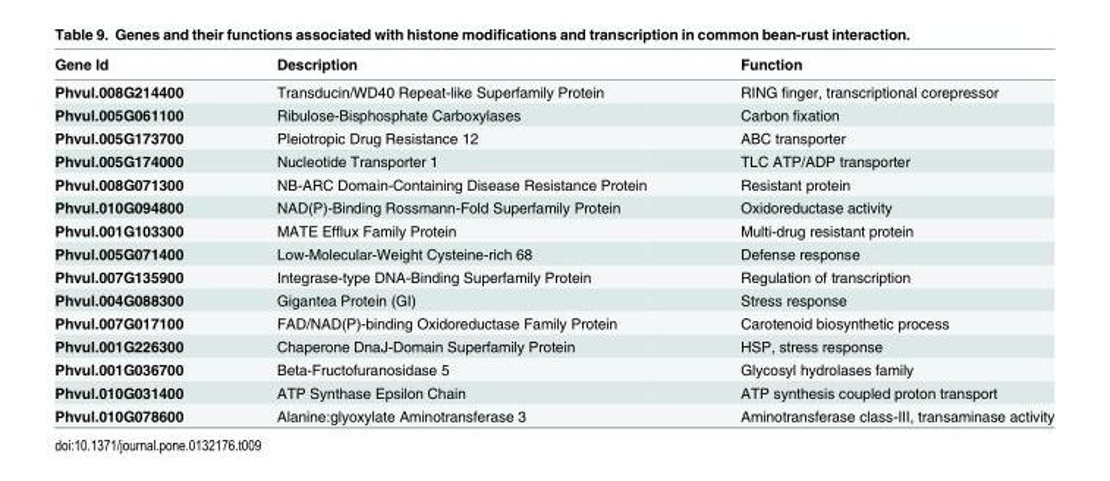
<table><thead><tr><td>Gene Id</td><td>Description</td><td>Function</td></tr></thead><tbody><tr><td>Phvul.008G214400</td><td>Transducin/WD40 Repeat-like Superfamily Protein</td><td>RING finger, transcriptional corepressor</td></tr><tr><td>Phvul.005G061100</td><td>Ribulose-Bisphosphate Carboxylases</td><td>Carbon fixation</td></tr><tr><td>Phvul.005G173700</td><td>Pleiotropic Drug Resistance 12</td><td>ABC transporter</td></tr><tr><td>Phvul.005G174000</td><td>Nucleotide Transporter 1</td><td>TLC ATP/ADP transporter</td></tr><tr><td>Phvul.008G071300</td><td>NB-ARC Domain-Containing Disease Resistance Protein</td><td>Resistant protein</td></tr><tr><td>Phvul.010G094800</td><td>NAD(P)-Binding Rossmann-Fold Superfamily Protein</td><td>Oxidoreductase activity</td></tr><tr><td>Phvul.001G103300</td><td>MATE Efflux Family Protein</td><td>Multi-drug resistant protein</td></tr><tr><td>Phvul.005G071400</td><td>Low-Molecular-Weight Cysteine-rich 68</td><td>Defense response</td></tr><tr><td>Phvul.007G135900</td><td>Integrase-type DNA-Binding Superfamily Protein</td><td>Regulation of transcription</td></tr><tr><td>Phvul.004G088300</td><td>Gigantea Protein (GI)</td><td>Stress response</td></tr><tr><td>Phvul.007G017100</td><td>FAD/NAD(P)-binding Oxidoreductase Family Protein</td><td>Carotenoid biosynthetic process</td></tr><tr><td>Phvul.001G226300</td><td>Chaperone DnaJ-Domain Superfamily Protein</td><td>HSP, stress response</td></tr><tr><td>Phvul.001G036700</td><td>Beta-Fructofuranosidase 5</td><td>Glycosyl hydrolases family</td></tr><tr><td>Phvul.010G031400</td><td>ATP Synthase Epsilon Chain</td><td>ATP synthesis coupled proton transport</td></tr><tr><td>Phvul.010G078600</td><td>Alanine:glyoxylate Aminotransferase 3</td><td>Aminotransferase class-III, transaminase activity</td></tr></tbody></table>